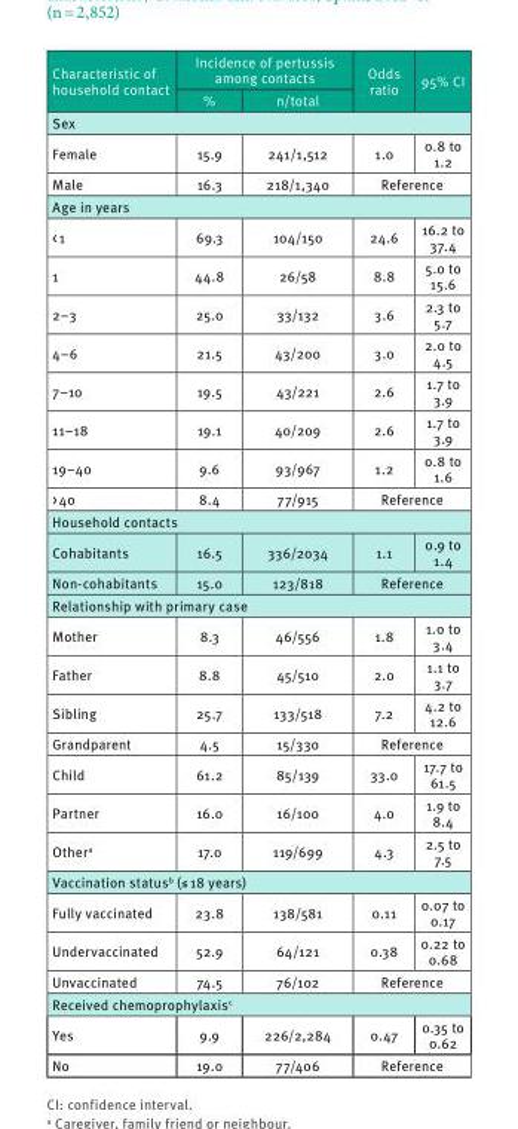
<table><thead><tr><td rowspan="2">Characteristic of household contact</td><td colspan="2">Incidence of pertussis among contacts</td><td rowspan="2">Odds ratio</td><td rowspan="2">95% CI</td></tr><tr><td>%</td><td>n/total</td></tr></thead><tbody><tr><td colspan="5">Sex</td></tr><tr><td>Female</td><td>15.9</td><td>241/1,512</td><td>1.0</td><td>0.8 to 1.2</td></tr><tr><td>Male</td><td>16.3</td><td>218/1,340</td><td colspan="2">Reference</td></tr><tr><td colspan="5">Age in years</td></tr><tr><td>&lt; 1</td><td>69.3</td><td>104/150</td><td>24.6</td><td>16.2 to 37.4</td></tr><tr><td>1</td><td>44.8</td><td>26/58</td><td>8.8</td><td>5.0 to 15.6</td></tr><tr><td>2–3</td><td>25.0</td><td>33/132</td><td>3.6</td><td>2.3 to 5.7</td></tr><tr><td>4–6</td><td>21.5</td><td>43/200</td><td>3.0</td><td>2.0 to 4.5</td></tr><tr><td>7–10</td><td>19.5</td><td>43/221</td><td>2.6</td><td>1.7 to 3.9</td></tr><tr><td>11–18</td><td>19.1</td><td>40/209</td><td>2.6</td><td>1.7 to 3.9</td></tr><tr><td>19–40</td><td>9.6</td><td>93/967</td><td>1.2</td><td>0.8 to 1.6</td></tr><tr><td>&gt; 40</td><td>8.4</td><td>77/915</td><td colspan="2">Reference</td></tr><tr><td colspan="5">Household contacts</td></tr><tr><td>Cohabitants</td><td>16.5</td><td>336/2034</td><td>1.1</td><td>0.9 to 1.4</td></tr><tr><td>Non-cohabitants</td><td>15.0</td><td>123/818</td><td colspan="2">Reference</td></tr><tr><td colspan="5">Relationship with primary case</td></tr><tr><td>Mother</td><td>8.3</td><td>46/556</td><td>1.8</td><td>1.0 to 3.4</td></tr><tr><td>Father</td><td>8.8</td><td>45/510</td><td>2.0</td><td>1.1 to 3.7</td></tr><tr><td>Sibling</td><td>25.7</td><td>133/518</td><td>7.2</td><td>4.2 to 12.6</td></tr><tr><td>Grandparent</td><td>4.5</td><td>15/330</td><td colspan="2">Reference</td></tr><tr><td>Child</td><td>61.2</td><td>85/139</td><td>33.0</td><td>17.7 to 61.5</td></tr><tr><td>Partner</td><td>16.0</td><td>16/100</td><td>4.0</td><td>1.9 to 8.4</td></tr><tr><td>Other<sup>a</sup></td><td>17.0</td><td>119/699</td><td>4.3</td><td>2.5 to 7.5</td></tr><tr><td colspan="5">Vaccination status<sup>b</sup> (≤ 18 years)</td></tr><tr><td>Fully vaccinated</td><td>23.8</td><td>138/581</td><td>0.11</td><td>0.07 to 0.17</td></tr><tr><td>Undervaccinated</td><td>52.9</td><td>64/121</td><td>0.38</td><td>0.22 to 0.68</td></tr><tr><td>Unvaccinated</td><td>74.5</td><td>76/102</td><td colspan="2">Reference</td></tr><tr><td colspan="5">Received chemoprophylaxis<sup>c</sup></td></tr><tr><td>Yes</td><td>9.9</td><td>226/2,284</td><td>0.47</td><td>0.35 to 0.62</td></tr><tr><td>No</td><td>19.0</td><td>77/406</td><td colspan="2">Reference</td></tr></tbody></table>